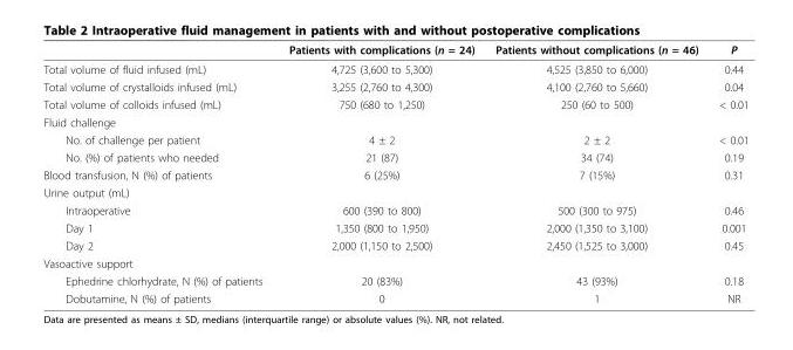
<table><thead><tr><td></td><td>Patients with complications (n = 24)</td><td>Patients without complications (n = 46)</td><td>P</td></tr></thead><tbody><tr><td>Total volume of fluid infused (mL)</td><td>4,725 (3,600 to 5,300)</td><td>4,525 (3,850 to 6,000)</td><td>0.44</td></tr><tr><td>Total volume of crystalloids infused (mL)</td><td>3,255 (2,760 to 4,300)</td><td>4,100 (2,760 to 5,660)</td><td>0.04</td></tr><tr><td>Total volume of colloids infused (mL)</td><td>750 (680 to 1,250)</td><td>250 (60 to 500)</td><td>&lt; 0.01</td></tr><tr><td colspan="4">Fluid challenge</td></tr><tr><td>No. of challenge per patient</td><td>4 ± 2</td><td>2 ± 2</td><td>&lt; 0.01</td></tr><tr><td>No. (%) of patients who needed</td><td>21 (87)</td><td>34 (74)</td><td>0.19</td></tr><tr><td>Blood transfusion, N (%) of patients</td><td>6 (25%)</td><td>7 (15%)</td><td>0.31</td></tr><tr><td colspan="4">Urine output (mL)</td></tr><tr><td>Intraoperative</td><td>600 (390 to 800)</td><td>500 (300 to 975)</td><td>0.46</td></tr><tr><td>Day 1</td><td>1,350 (800 to 1,950)</td><td>2,000 (1,350 to 3,100)</td><td>0.001</td></tr><tr><td>Day 2</td><td>2,000 (1,150 to 2,500)</td><td>2,450 (1,525 to 3,000)</td><td>0.45</td></tr><tr><td colspan="4">Vasoactive support</td></tr><tr><td>Ephedrine chlorhydrate, N (%) of patients</td><td>20 (83%)</td><td>43 (93%)</td><td>0.18</td></tr><tr><td>Dobutamine, N (%) of patients</td><td>0</td><td>1</td><td>NR</td></tr></tbody></table>